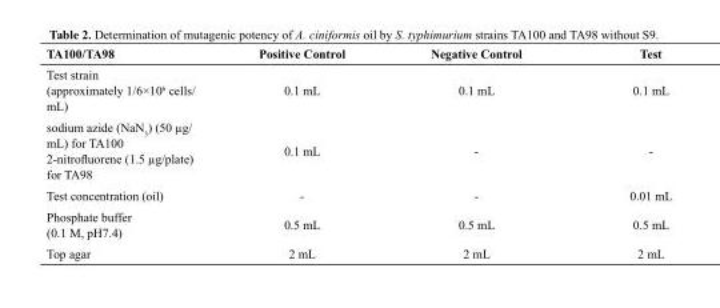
<table><thead><tr><td>Test</td><td>Negative Control</td><td>Positive Control</td><td>TA100/TA98</td></tr></thead><tbody><tr><td>0.1 mL</td><td>0.1 mL</td><td>0.1 mL</td><td>Test strain (approximately 1/6×10<sup>6</sup> cells/ mL)</td></tr><tr><td rowspan="2">-</td><td rowspan="2">-</td><td rowspan="2">0.1 mL</td><td>sodium azide (NaN<sub>3</sub>) (50 µg/ mL) for TA100</td></tr><tr><td>2-nitrofluorene (1.5 µg/plate) for TA98</td></tr><tr><td>0.01 mL</td><td>-</td><td>-</td><td>Test concentration (oil)</td></tr><tr><td>0.5 mL</td><td>0.5 mL</td><td>0.5 mL</td><td>Phosphate buffer (0.1 M, pH7.4)</td></tr><tr><td>2 mL</td><td>2 mL</td><td>2 mL</td><td>Top agar</td></tr></tbody></table>